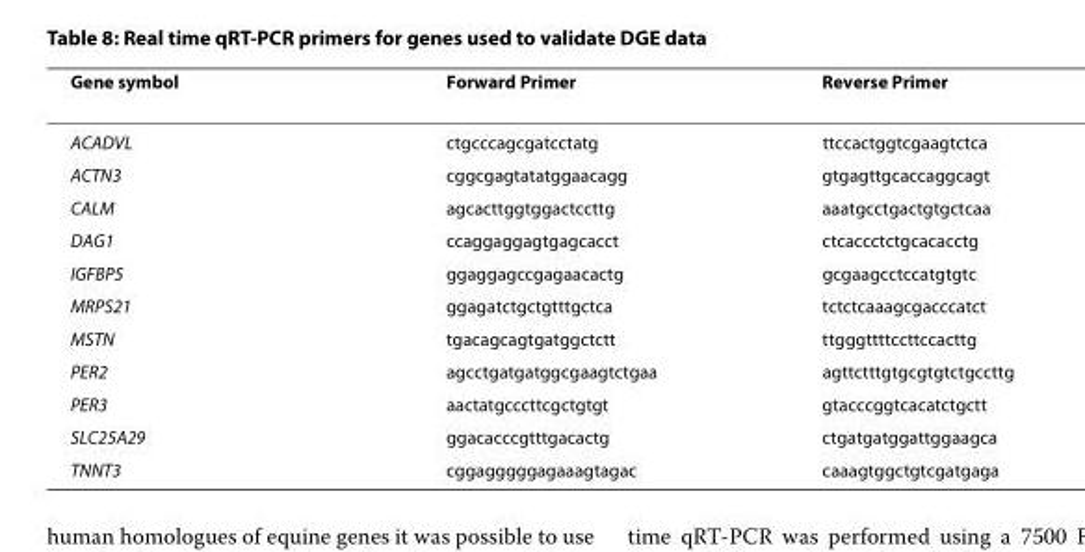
<table><thead><tr><td>Gene symbol</td><td>Forward Primer</td><td>Reverse Primer</td></tr></thead><tbody><tr><td>ACADVL</td><td>ctgcccagcgatcctatg</td><td>ttccactggtcgaagtctca</td></tr><tr><td>ACTN3</td><td>cggcgagtatatggaacagg</td><td>gtgagttgcaccaggcagt</td></tr><tr><td>CALM</td><td>agcacttggtggactccttg</td><td>aaatgcctgactgtgctcaa</td></tr><tr><td>DAG1</td><td>ccaggaggagtgagcacct</td><td>ctcaccctctgcacacctg</td></tr><tr><td>IGFBP5</td><td>ggaggagccgagaacactg</td><td>gcgaagcctccatgtgtc</td></tr><tr><td>MRPS21</td><td>ggagatctgctgtttgctca</td><td>tctctcaaagcgacccatct</td></tr><tr><td>MSTN</td><td>tgacagcagtgatggctctt</td><td>ttgggttttccttccacttg</td></tr><tr><td>PER2</td><td>agcctgatgatggcgaagtctgaa</td><td>agttctttgtgcgtgtctgccttg</td></tr><tr><td>PER3</td><td>aactatgcccttcgctgtgt</td><td>gtacccggtcacatctgctt</td></tr><tr><td>SLC25A29</td><td>ggacacccgtttgacactg</td><td>ctgatgatggattggaagca</td></tr><tr><td>TNNT3</td><td>cggagggggagaaagtagac</td><td>caaagtggctgtcgatgaga</td></tr></tbody></table>